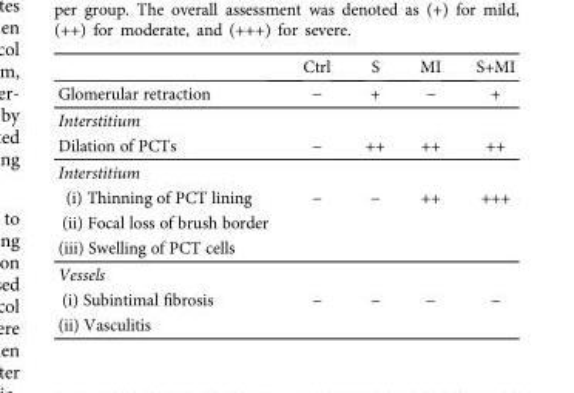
<table><thead><tr><td></td><td>Ctrl</td><td>S</td><td>MI</td><td>S+MI</td></tr></thead><tbody><tr><td>Glomerular retraction</td><td>−</td><td>+</td><td>−</td><td>+</td></tr><tr><td colspan="5">Interstitium</td></tr><tr><td>Dilation of PCTs</td><td>−</td><td>++</td><td>++</td><td>++</td></tr><tr><td colspan="5">Interstitium</td></tr><tr><td>(i) Thinning of PCT lining</td><td>−</td><td>−</td><td>++</td><td>+++</td></tr><tr><td colspan="5">(ii) Focal loss of brush border</td></tr><tr><td colspan="5">(iii) Swelling of PCT cells</td></tr><tr><td colspan="5">Vessels</td></tr><tr><td>(i) Subintimal fibrosis</td><td>−</td><td>−</td><td>−</td><td>−</td></tr><tr><td>(ii) Vasculitis</td><td></td><td></td><td></td><td></td></tr></tbody></table>